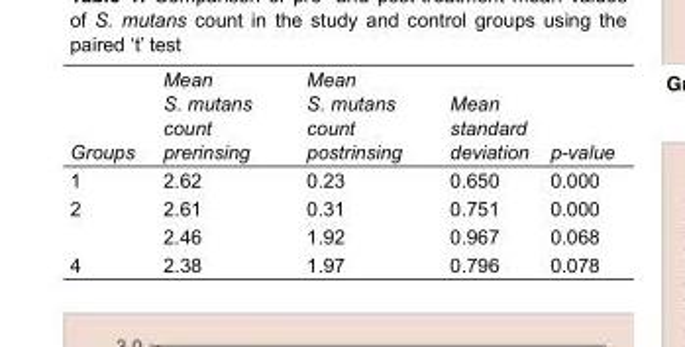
<table><tbody><tr><td>Groups</td><td>Mean S. mutans count prerinsing</td><td>Mean S. mutans count postrinsing</td><td>Mean standard deviation</td><td>p-value</td></tr><tr><td>1</td><td>2.62</td><td>0.23</td><td>0.650</td><td>0.000</td></tr><tr><td rowspan="2">2</td><td>2.61</td><td>0.31</td><td>0.751</td><td>0.000</td></tr><tr><td>2.46</td><td>1.92</td><td>0.967</td><td>0.068</td></tr><tr><td>4</td><td>2.38</td><td>1.97</td><td>0.796</td><td>0.078</td></tr></tbody></table>